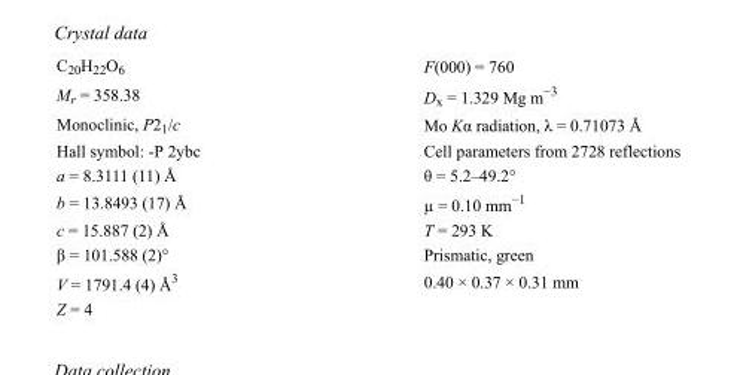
<table><tbody><tr><td>C<sub>20</sub>H<sub>22</sub>O<sub>6</sub></td><td>F(000) = 760</td></tr><tr><td>M<sub>r</sub> = 358.38</td><td>D<sub>x</sub> = 1.329 Mg m<sup>−3</sup></td></tr><tr><td>Monoclinic, P2<sub>1</sub>/c</td><td>Mo Kα radiation, λ = 0.71073 Å</td></tr><tr><td>Hall symbol: -P 2ybc</td><td>Cell parameters from 2728 reflections</td></tr><tr><td>a = 8.3111 (11) Å</td><td>θ = 5.2–49.2°</td></tr><tr><td>b = 13.8493 (17) Å</td><td>µ = 0.10 mm<sup>−1</sup></td></tr><tr><td>c = 15.887 (2) Å</td><td>T = 293 K</td></tr><tr><td>β = 101.588 (2)°</td><td>Prismatic, green</td></tr><tr><td>V = 1791.4 (4) Å<sup>3</sup></td><td>0.40 × 0.37 × 0.31 mm</td></tr><tr><td>Z = 4</td><td></td></tr></tbody></table>